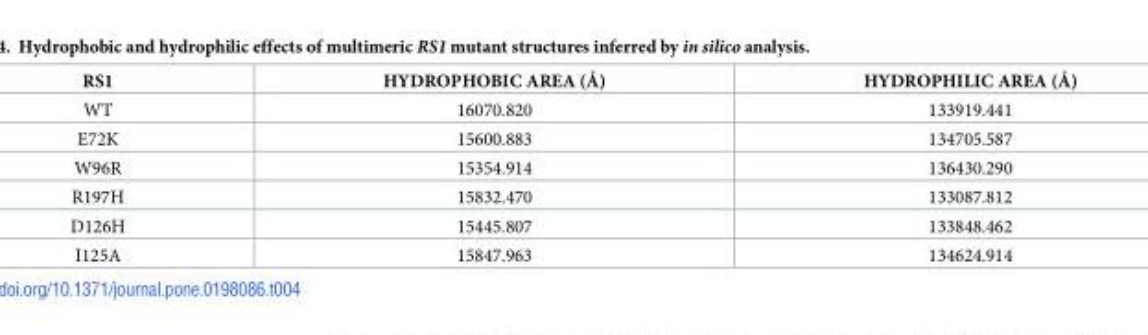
<table><thead><tr><td>RS1</td><td>HYDROPHOBIC AREA (Å)</td><td>HYDROPHILIC AREA (Å)</td></tr></thead><tbody><tr><td>WT</td><td>16070.820</td><td>133919.441</td></tr><tr><td>E72K</td><td>15600.883</td><td>134705.587</td></tr><tr><td>W96R</td><td>15354.914</td><td>136430.290</td></tr><tr><td>R197H</td><td>15832.470</td><td>133087.812</td></tr><tr><td>D126H</td><td>15445.807</td><td>133848.462</td></tr><tr><td>I125A</td><td>15847.963</td><td>134624.914</td></tr></tbody></table>